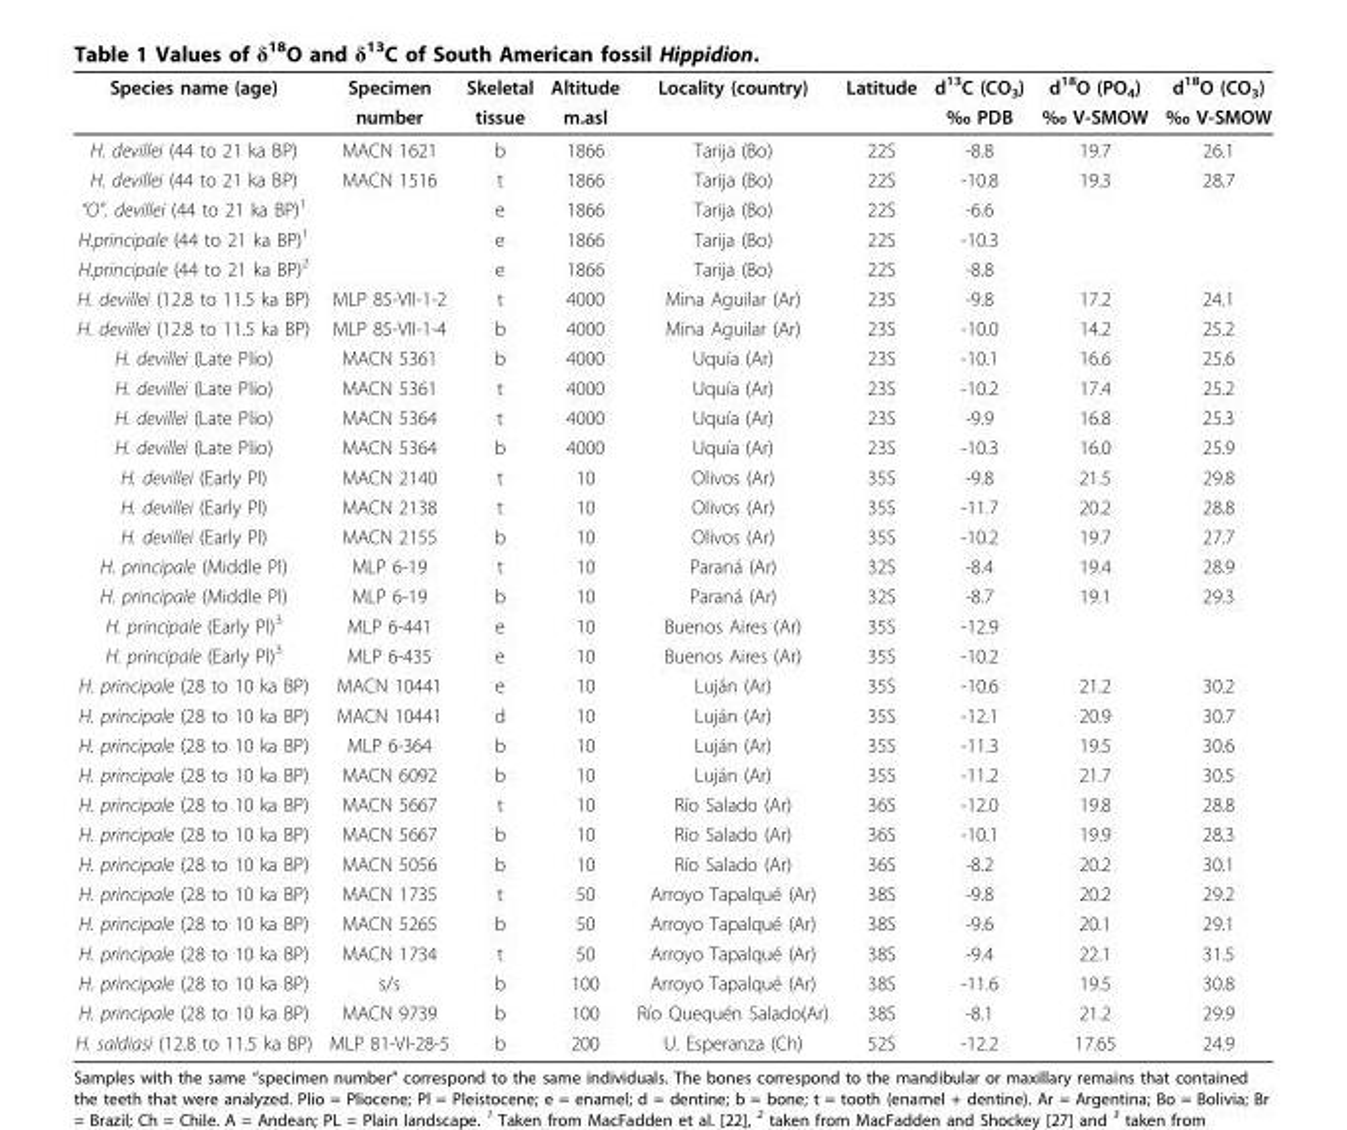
<table><thead><tr><td rowspan="2">Species name (age)</td><td rowspan="2">Specimen number</td><td rowspan="2">Skeletal tissue</td><td rowspan="2">Altitude m.asl</td><td rowspan="2">Locality (country)</td><td rowspan="2">Latitude</td><td rowspan="2">d<sup>13</sup>C (CO<sub>3</sub>) ‰ PDB</td><td rowspan="2">d<sup>18</sup>O (PO<sub>4</sub>) ‰ V-SMOW</td><td rowspan="2">d<sup>18</sup>O (CO<sub>3</sub>) ‰ V-SMOW</td></tr><tr></tr></thead><tbody><tr><td>H. devillei (44 to 21 ka BP)</td><td>MACN 1621</td><td>b</td><td>1866</td><td>Tarija (Bo)</td><td>22S</td><td>-8.8</td><td>19.7</td><td>26.1</td></tr><tr><td>H. devillei (44 to 21 ka BP)</td><td>MACN 1516</td><td>t</td><td>1866</td><td>Tarija (Bo)</td><td>22S</td><td>-10.8</td><td>19.3</td><td>28.7</td></tr><tr><td>“O”. devillei (44 to 21 ka BP)1</td><td></td><td>e</td><td>1866</td><td>Tarija (Bo)</td><td>22S</td><td>-6.6</td><td></td><td></td></tr><tr><td>H.principale (44 to 21 ka BP)<sup>1</sup></td><td></td><td>e</td><td>1866</td><td>Tarija (Bo)</td><td>22S</td><td>-10.3</td><td></td><td></td></tr><tr><td>H.principale (44 to 21 ka BP)<sup>2</sup></td><td></td><td>e</td><td>1866</td><td>Tarija (Bo)</td><td>22S</td><td>-8.8</td><td></td><td></td></tr><tr><td>H. devillei (12.8 to 11.5 ka BP)</td><td>MLP 85-VII-1-2</td><td>t</td><td>4000</td><td>Mina Aguilar (Ar)</td><td>23S</td><td>-9.8</td><td>17.2</td><td>24.1</td></tr><tr><td>H. devillei (12.8 to 11.5 ka BP)</td><td>MLP 85-VII-1-4</td><td>b</td><td>4000</td><td>Mina Aguilar (Ar)</td><td>23S</td><td>-10.0</td><td>14.2</td><td>25.2</td></tr><tr><td>H. devillei (Late Plio)</td><td>MACN 5361</td><td>b</td><td>4000</td><td>Uquía (Ar)</td><td>23S</td><td>-10.1</td><td>16.6</td><td>25.6</td></tr><tr><td>H. devillei (Late Plio)</td><td>MACN 5361</td><td>t</td><td>4000</td><td>Uquía (Ar)</td><td>23S</td><td>-10.2</td><td>17.4</td><td>25.2</td></tr><tr><td>H. devillei (Late Plio)</td><td>MACN 5364</td><td>t</td><td>4000</td><td>Uquía (Ar)</td><td>23S</td><td>-9.9</td><td>16.8</td><td>25.3</td></tr><tr><td>H. devillei (Late Plio)</td><td>MACN 5364</td><td>b</td><td>4000</td><td>Uquía (Ar)</td><td>23S</td><td>-10.3</td><td>16.0</td><td>25.9</td></tr><tr><td>H. devillei (Early Pl)</td><td>MACN 2140</td><td>t</td><td>10</td><td>Olivos (Ar)</td><td>35S</td><td>-9.8</td><td>21.5</td><td>29.8</td></tr><tr><td>H. devillei (Early Pl)</td><td>MACN 2138</td><td>t</td><td>10</td><td>Olivos (Ar)</td><td>35S</td><td>-11.7</td><td>20.2</td><td>28.8</td></tr><tr><td>H. devillei (Early Pl)</td><td>MACN 2155</td><td>b</td><td>10</td><td>Olivos (Ar)</td><td>35S</td><td>-10.2</td><td>19.7</td><td>27.7</td></tr><tr><td>H. principale (Middle Pl)</td><td>MLP 6-19</td><td>t</td><td>10</td><td>Paraná (Ar)</td><td>32S</td><td>-8.4</td><td>19.4</td><td>28.9</td></tr><tr><td>H. principale (Middle Pl)</td><td>MLP 6-19</td><td>b</td><td>10</td><td>Paraná (Ar)</td><td>32S</td><td>-8.7</td><td>19.1</td><td>29.3</td></tr><tr><td>H. principale (Early Pl)<sup>3</sup></td><td>MLP 6-441</td><td>e</td><td>10</td><td>Buenos Aires (Ar)</td><td>35S</td><td>-12.9</td><td></td><td></td></tr><tr><td>H. principale (Early Pl)<sup>3</sup></td><td>MLP 6-435</td><td>e</td><td>10</td><td>Buenos Aires (Ar)</td><td>35S</td><td>-10.2</td><td></td><td></td></tr><tr><td>H. principale (28 to 10 ka BP)</td><td>MACN 10441</td><td>e</td><td>10</td><td>Luján (Ar)</td><td>35S</td><td>-10.6</td><td>21.2</td><td>30.2</td></tr><tr><td>H. principale (28 to 10 ka BP)</td><td>MACN 10441</td><td>d</td><td>10</td><td>Luján (Ar)</td><td>35S</td><td>-12.1</td><td>20.9</td><td>30.7</td></tr><tr><td>H. principale (28 to 10 ka BP)</td><td>MLP 6-364</td><td>b</td><td>10</td><td>Luján (Ar)</td><td>35S</td><td>-11.3</td><td>19.5</td><td>30.6</td></tr><tr><td>H. principale (28 to 10 ka BP)</td><td>MACN 6092</td><td>b</td><td>10</td><td>Luján (Ar)</td><td>35S</td><td>-11.2</td><td>21.7</td><td>30.5</td></tr><tr><td>H. principale (28 to 10 ka BP)</td><td>MACN 5667</td><td>t</td><td>10</td><td>Río Salado (Ar)</td><td>36S</td><td>-12.0</td><td>19.8</td><td>28.8</td></tr><tr><td>H. principale (28 to 10 ka BP)</td><td>MACN 5667</td><td>b</td><td>10</td><td>Río Salado (Ar)</td><td>36S</td><td>-10.1</td><td>19.9</td><td>28.3</td></tr><tr><td>H. principale (28 to 10 ka BP)</td><td>MACN 5056</td><td>b</td><td>10</td><td>Río Salado (Ar)</td><td>36S</td><td>-8.2</td><td>20.2</td><td>30.1</td></tr><tr><td>H. principale (28 to 10 ka BP)</td><td>MACN 1735</td><td>t</td><td>50</td><td>Arroyo Tapalqué (Ar)</td><td>38S</td><td>-9.8</td><td>20.2</td><td>29.2</td></tr><tr><td>H. principale (28 to 10 ka BP)</td><td>MACN 5265</td><td>b</td><td>50</td><td>Arroyo Tapalqué (Ar)</td><td>38S</td><td>-9.6</td><td>20.1</td><td>29.1</td></tr><tr><td>H. principale (28 to 10 ka BP)</td><td>MACN 1734</td><td>t</td><td>50</td><td>Arroyo Tapalqué (Ar)</td><td>38S</td><td>-9.4</td><td>22.1</td><td>31.5</td></tr><tr><td>H. principale (28 to 10 ka BP)</td><td>s/s</td><td>b</td><td>100</td><td>Arroyo Tapalqué (Ar)</td><td>38S</td><td>-11.6</td><td>19.5</td><td>30.8</td></tr><tr><td>H. principale (28 to 10 ka BP)</td><td>MACN 9739</td><td>b</td><td>100</td><td>Río Quequén Salado(Ar)</td><td>38S</td><td>-8.1</td><td>21.2</td><td>29.9</td></tr><tr><td>H. saldiasi (12.8 to 11.5 ka BP)</td><td>MLP 81-VI-28-5</td><td>b</td><td>200</td><td>U. Esperanza (Ch)</td><td>52S</td><td>-12.2</td><td>17.65</td><td>24.9</td></tr></tbody></table>